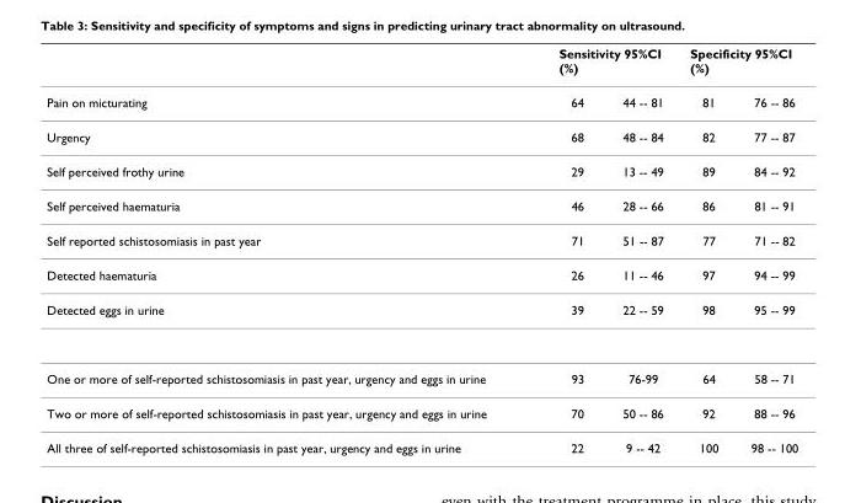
<table><thead><tr><td rowspan="2">Pain on micturating</td><td colspan="2">Sensitivity 95%CI (%)</td><td colspan="2">Specificity 95%CI (%)</td></tr><tr><td>64</td><td>44 -- 81</td><td>81</td><td>76 -- 86</td></tr></thead><tbody><tr><td>Urgency</td><td>68</td><td>48 -- 84</td><td>82</td><td>77 -- 87</td></tr><tr><td>Self perceived frothy urine</td><td>29</td><td>13 -- 49</td><td>89</td><td>84 -- 92</td></tr><tr><td>Self perceived haematuria</td><td>46</td><td>28 -- 66</td><td>86</td><td>81 -- 91</td></tr><tr><td>Self reported schistosomiasis in past year</td><td>71</td><td>51 -- 87</td><td>77</td><td>71 -- 82</td></tr><tr><td>Detected haematuria</td><td>26</td><td>11 -- 46</td><td>97</td><td>94 -- 99</td></tr><tr><td>Detected eggs in urine</td><td>39</td><td>22 -- 59</td><td>98</td><td>95 -- 99</td></tr><tr><td>One or more of self-reported schistosomiasis in past year, urgency and eggs in urine</td><td>93</td><td>76-99</td><td>64</td><td>58 -- 71</td></tr><tr><td>Two or more of self-reported schistosomiasis in past year, urgency and eggs in urine</td><td>70</td><td>50 -- 86</td><td>92</td><td>88 -- 96</td></tr><tr><td>All three of self-reported schistosomiasis in past year, urgency and eggs in urine</td><td>22</td><td>9 -- 42</td><td>100</td><td>98 -- 100</td></tr></tbody></table>